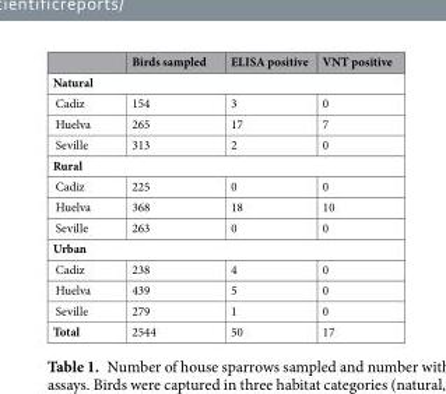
<table><thead><tr><td></td><td>Birds sampled</td><td>ELISA positive</td><td>VNT positive</td></tr></thead><tbody><tr><td colspan="4">Natural</td></tr><tr><td>Cadiz</td><td>154</td><td>3</td><td>0</td></tr><tr><td>Huelva</td><td>265</td><td>17</td><td>7</td></tr><tr><td>Seville</td><td>313</td><td>2</td><td>0</td></tr><tr><td colspan="4">Rural</td></tr><tr><td>Cadiz</td><td>225</td><td>0</td><td>0</td></tr><tr><td>Huelva</td><td>368</td><td>18</td><td>10</td></tr><tr><td>Seville</td><td>263</td><td>0</td><td>0</td></tr><tr><td colspan="4">Urban</td></tr><tr><td>Cadiz</td><td>238</td><td>4</td><td>0</td></tr><tr><td>Huelva</td><td>439</td><td>5</td><td>0</td></tr><tr><td>Seville</td><td>279</td><td>1</td><td>0</td></tr><tr><td>Total</td><td>2544</td><td>50</td><td>17</td></tr></tbody></table>